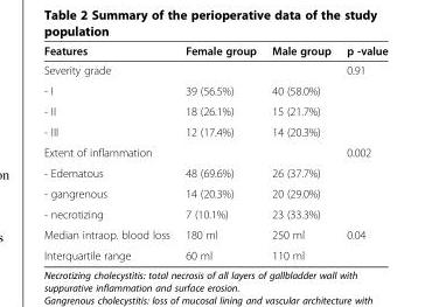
<table><thead><tr><td>Features</td><td>Female group</td><td>Male group</td><td>p -value</td></tr></thead><tbody><tr><td colspan="3">Severity grade</td><td rowspan="4">0.91</td></tr><tr><td>- I</td><td>39 (56.5%)</td><td>40 (58.0%)</td></tr><tr><td>- II</td><td>18 (26.1%)</td><td>15 (21.7%)</td></tr><tr><td>- III</td><td>12 (17.4%)</td><td>14 (20.3%)</td></tr><tr><td colspan="3">Extent of inflammation</td><td rowspan="4">0.002</td></tr><tr><td>- Edematous</td><td>48 (69.6%)</td><td>26 (37.7%)</td></tr><tr><td>- gangrenous</td><td>14 (20.3%)</td><td>20 (29.0%)</td></tr><tr><td>- necrotizing</td><td>7 (10.1%)</td><td>23 (33.3%)</td></tr><tr><td>Median intraop. blood loss</td><td>180 ml</td><td>250 ml</td><td rowspan="2">0.04</td></tr><tr><td>Interquartile range</td><td>60 ml</td><td>110 ml</td></tr></tbody></table>